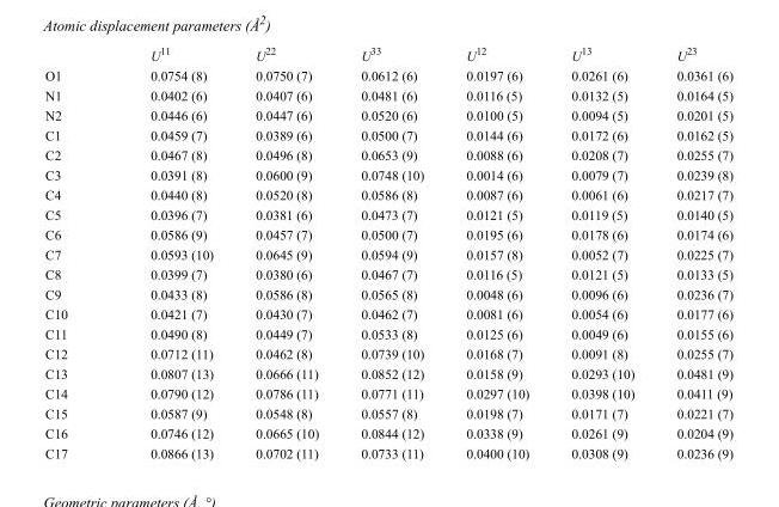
<table><thead><tr><td></td><td>U<sup>11</sup></td><td>U<sup>22</sup></td><td>U<sup>33</sup></td><td>U<sup>12</sup></td><td>U<sup>13</sup></td><td>U<sup>23</sup></td></tr></thead><tbody><tr><td>O1</td><td>0.0754 (8)</td><td>0.0750 (7)</td><td>0.0612 (6)</td><td>0.0197 (6)</td><td>0.0261 (6)</td><td>0.0361 (6)</td></tr><tr><td>N1</td><td>0.0402 (6)</td><td>0.0407 (6)</td><td>0.0481 (6)</td><td>0.0116 (5)</td><td>0.0132 (5)</td><td>0.0164 (5)</td></tr><tr><td>N2</td><td>0.0446 (6)</td><td>0.0447 (6)</td><td>0.0520 (6)</td><td>0.0100 (5)</td><td>0.0094 (5)</td><td>0.0201 (5)</td></tr><tr><td>C1</td><td>0.0459 (7)</td><td>0.0389 (6)</td><td>0.0500 (7)</td><td>0.0144 (6)</td><td>0.0172 (6)</td><td>0.0162 (5)</td></tr><tr><td>C2</td><td>0.0467 (8)</td><td>0.0496 (8)</td><td>0.0653 (9)</td><td>0.0088 (6)</td><td>0.0208 (7)</td><td>0.0255 (7)</td></tr><tr><td>C3</td><td>0.0391 (8)</td><td>0.0600 (9)</td><td>0.0748 (10)</td><td>0.0014 (6)</td><td>0.0079 (7)</td><td>0.0239 (8)</td></tr><tr><td>C4</td><td>0.0440 (8)</td><td>0.0520 (8)</td><td>0.0586 (8)</td><td>0.0087 (6)</td><td>0.0061 (6)</td><td>0.0217 (7)</td></tr><tr><td>C5</td><td>0.0396 (7)</td><td>0.0381 (6)</td><td>0.0473 (7)</td><td>0.0121 (5)</td><td>0.0119 (5)</td><td>0.0140 (5)</td></tr><tr><td>C6</td><td>0.0586 (9)</td><td>0.0457 (7)</td><td>0.0500 (7)</td><td>0.0195 (6)</td><td>0.0178 (6)</td><td>0.0174 (6)</td></tr><tr><td>C7</td><td>0.0593 (10)</td><td>0.0645 (9)</td><td>0.0594 (9)</td><td>0.0157 (8)</td><td>0.0052 (7)</td><td>0.0225 (7)</td></tr><tr><td>C8</td><td>0.0399 (7)</td><td>0.0380 (6)</td><td>0.0467 (7)</td><td>0.0116 (5)</td><td>0.0121 (5)</td><td>0.0133 (5)</td></tr><tr><td>C9</td><td>0.0433 (8)</td><td>0.0586 (8)</td><td>0.0565 (8)</td><td>0.0048 (6)</td><td>0.0096 (6)</td><td>0.0236 (7)</td></tr><tr><td>C10</td><td>0.0421 (7)</td><td>0.0430 (7)</td><td>0.0462 (7)</td><td>0.0081 (6)</td><td>0.0054 (6)</td><td>0.0177 (6)</td></tr><tr><td>C11</td><td>0.0490 (8)</td><td>0.0449 (7)</td><td>0.0533 (8)</td><td>0.0125 (6)</td><td>0.0049 (6)</td><td>0.0155 (6)</td></tr><tr><td>C12</td><td>0.0712 (11)</td><td>0.0462 (8)</td><td>0.0739 (10)</td><td>0.0168 (7)</td><td>0.0091 (8)</td><td>0.0255 (7)</td></tr><tr><td>C13</td><td>0.0807 (13)</td><td>0.0666 (11)</td><td>0.0852 (12)</td><td>0.0158 (9)</td><td>0.0293 (10)</td><td>0.0481 (9)</td></tr><tr><td>C14</td><td>0.0790 (12)</td><td>0.0786 (11)</td><td>0.0771 (11)</td><td>0.0297 (10)</td><td>0.0398 (10)</td><td>0.0411 (9)</td></tr><tr><td>C15</td><td>0.0587 (9)</td><td>0.0548 (8)</td><td>0.0557 (8)</td><td>0.0198 (7)</td><td>0.0171 (7)</td><td>0.0221 (7)</td></tr><tr><td>C16</td><td>0.0746 (12)</td><td>0.0665 (10)</td><td>0.0844 (12)</td><td>0.0338 (9)</td><td>0.0261 (9)</td><td>0.0204 (9)</td></tr><tr><td>C17</td><td>0.0866 (13)</td><td>0.0702 (11)</td><td>0.0733 (11)</td><td>0.0400 (10)</td><td>0.0308 (9)</td><td>0.0236 (9)</td></tr></tbody></table>